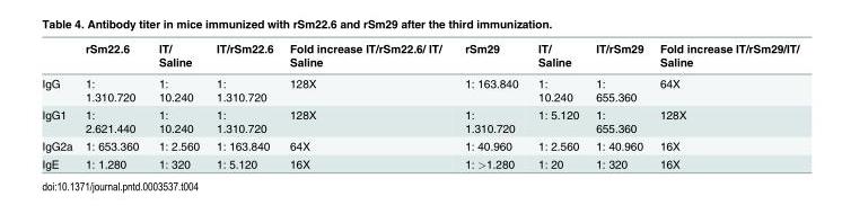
<table><thead><tr><td></td><td>rSm22.6</td><td>IT/ Saline</td><td>IT/rSm22.6</td><td>Fold increase IT/rSm22.6/ IT/ Saline</td><td>rSm29</td><td>IT/ Saline</td><td>IT/rSm29</td><td>Fold increase IT/rSm29/IT/ Saline</td></tr></thead><tbody><tr><td>IgG</td><td>1: 1.310.720</td><td>1: 10.240</td><td>1: 1.310.720</td><td>128X</td><td>1: 163.840</td><td>1: 10.240</td><td>1: 655.360</td><td>64X</td></tr><tr><td>IgG1</td><td>1: 2.621.440</td><td>1: 10.240</td><td>1: 1.310.720</td><td>128X</td><td>1: 1.310.720</td><td>1: 5.120</td><td>1: 655.360</td><td>128X</td></tr><tr><td>IgG2a</td><td>1: 653.360</td><td>1: 2.560</td><td>1: 163.840</td><td>64X</td><td>1: 40.960</td><td>1: 2.560</td><td>1: 40.960</td><td>16X</td></tr><tr><td>IgE</td><td>1: 1.280</td><td>1: 320</td><td>1: 5.120</td><td>16X</td><td>1: &gt;1.280</td><td>1: 20</td><td>1: 320</td><td>16X</td></tr></tbody></table>